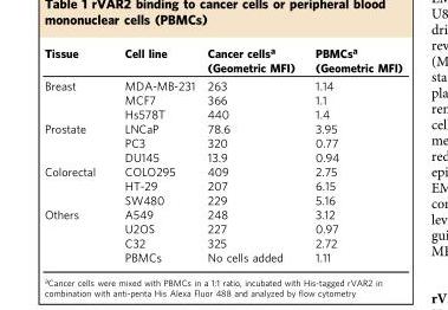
<table><thead><tr><td>Tissue</td><td>Cell line</td><td>Cancer cells<sup>a</sup> (Geometric MFI)</td><td>PBMCs<sup>a</sup> (Geometric MFI)</td></tr></thead><tbody><tr><td rowspan="3">Breast</td><td>MDA-MB-231</td><td>263</td><td>1.14</td></tr><tr><td>MCF7</td><td>366</td><td>1.1</td></tr><tr><td>Hs578T</td><td>440</td><td>1.4</td></tr><tr><td rowspan="3">Prostate</td><td>LNCaP</td><td>78.6</td><td>3.95</td></tr><tr><td>PC3</td><td>320</td><td>0.77</td></tr><tr><td>DU145</td><td>13.9</td><td>0.94</td></tr><tr><td rowspan="3">Colorectal</td><td>COLO295</td><td>409</td><td>2.75</td></tr><tr><td>HT-29</td><td>207</td><td>6.15</td></tr><tr><td>SW480</td><td>229</td><td>5.16</td></tr><tr><td rowspan="4">Others</td><td>A549</td><td>248</td><td>3.12</td></tr><tr><td>U2OS</td><td>227</td><td>0.97</td></tr><tr><td>C32</td><td>325</td><td>2.72</td></tr><tr><td>PBMCs</td><td>No cells added</td><td>1.11</td></tr></tbody></table>